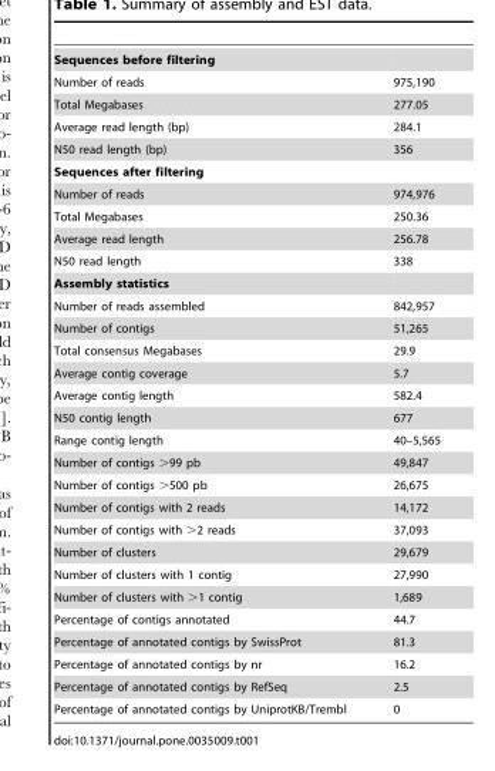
<table><tbody><tr><td colspan="2">Sequences before filtering</td></tr><tr><td>Number of reads</td><td>975,190</td></tr><tr><td>Total Megabases</td><td>277.05</td></tr><tr><td>Average read length (bp)</td><td>284.1</td></tr><tr><td>N50 read length (bp)</td><td>356</td></tr><tr><td colspan="2">Sequences after filtering</td></tr><tr><td>Number of reads</td><td>974,976</td></tr><tr><td>Total Megabases</td><td>250.36</td></tr><tr><td>Average read length</td><td>256.78</td></tr><tr><td>N50 read length</td><td>338</td></tr><tr><td colspan="2">Assembly statistics</td></tr><tr><td>Number of reads assembled</td><td>842,957</td></tr><tr><td>Number of contigs</td><td>51,265</td></tr><tr><td>Total consensus Megabases</td><td>29.9</td></tr><tr><td>Average contig coverage</td><td>5.7</td></tr><tr><td>Average contig length</td><td>582.4</td></tr><tr><td>N50 contig length</td><td>677</td></tr><tr><td>Range contig length</td><td>40–5,565</td></tr><tr><td>Number of contigs &gt;99 pb</td><td>49,847</td></tr><tr><td>Number of contigs &gt;500 pb</td><td>26,675</td></tr><tr><td>Number of contigs with 2 reads</td><td>14,172</td></tr><tr><td>Number of contigs with &gt;2 reads</td><td>37,093</td></tr><tr><td>Number of clusters</td><td>29,679</td></tr><tr><td>Number of clusters with 1 contig</td><td>27,990</td></tr><tr><td>Number of clusters with &gt;1 contig</td><td>1,689</td></tr><tr><td>Percentage of contigs annotated</td><td>44.7</td></tr><tr><td>Percentage of annotated contigs by SwissProt</td><td>81.3</td></tr><tr><td>Percentage of annotated contigs by nr</td><td>16.2</td></tr><tr><td>Percentage of annotated contigs by RefSeq</td><td>2.5</td></tr><tr><td>Percentage of annotated contigs by UniprotKB/Trembl</td><td>0</td></tr></tbody></table>